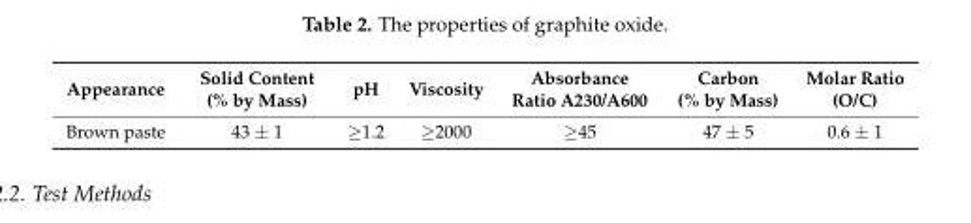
<table><thead><tr><td>Appearance</td><td>Solid Content (% by Mass)</td><td>pH</td><td>Viscosity</td><td>Absorbance Ratio A230/A600</td><td>Carbon (% by Mass)</td><td>Molar Ratio (O/C)</td></tr></thead><tbody><tr><td>Brown paste</td><td>43 ± 1</td><td>≥1.2</td><td>≥2000</td><td>≥45</td><td>47 ± 5</td><td>0.6 ± 1</td></tr></tbody></table>